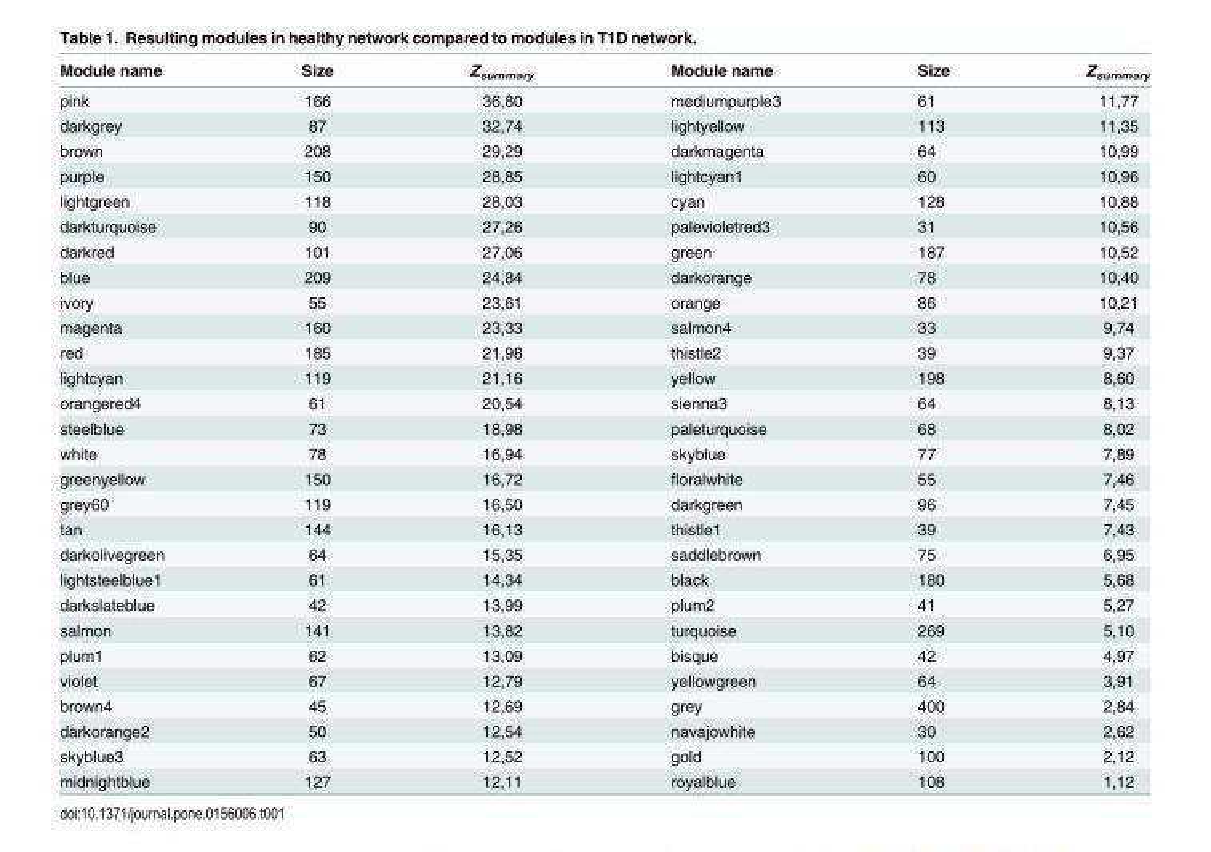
<table><thead><tr><td>Module name</td><td>Size</td><td>Z<sub>summary</sub></td><td>Module name</td><td>Size</td><td>Z<sub>summary</sub></td></tr></thead><tbody><tr><td>pink</td><td>166</td><td>36,80</td><td>mediumpurple3</td><td>61</td><td>11,77</td></tr><tr><td>darkgrey</td><td>87</td><td>32,74</td><td>lightyellow</td><td>113</td><td>11,35</td></tr><tr><td>brown</td><td>208</td><td>29,29</td><td>darkmagenta</td><td>64</td><td>10,99</td></tr><tr><td>purple</td><td>150</td><td>28,85</td><td>lightcyan1</td><td>60</td><td>10,96</td></tr><tr><td>lightgreen</td><td>118</td><td>28,03</td><td>cyan</td><td>128</td><td>10,88</td></tr><tr><td>darkturquoise</td><td>90</td><td>27,26</td><td>palevioletred3</td><td>31</td><td>10,56</td></tr><tr><td>darkred</td><td>101</td><td>27,06</td><td>green</td><td>187</td><td>10,52</td></tr><tr><td>blue</td><td>209</td><td>24,84</td><td>darkorange</td><td>78</td><td>10,40</td></tr><tr><td>ivory</td><td>55</td><td>23,61</td><td>orange</td><td>86</td><td>10,21</td></tr><tr><td>magenta</td><td>160</td><td>23,33</td><td>salmon4</td><td>33</td><td>9,74</td></tr><tr><td>red</td><td>185</td><td>21,98</td><td>thistle2</td><td>39</td><td>9,37</td></tr><tr><td>lightcyan</td><td>119</td><td>21,16</td><td>yellow</td><td>198</td><td>8,60</td></tr><tr><td>orangered4</td><td>61</td><td>20,54</td><td>sienna3</td><td>64</td><td>8,13</td></tr><tr><td>steelblue</td><td>73</td><td>18,98</td><td>paleturquoise</td><td>68</td><td>8,02</td></tr><tr><td>white</td><td>78</td><td>16,94</td><td>skyblue</td><td>77</td><td>7,89</td></tr><tr><td>greenyellow</td><td>150</td><td>16,72</td><td>floralwhite</td><td>55</td><td>7,46</td></tr><tr><td>grey60</td><td>119</td><td>16,50</td><td>darkgreen</td><td>96</td><td>7,45</td></tr><tr><td>tan</td><td>144</td><td>16,13</td><td>thistle1</td><td>39</td><td>7,43</td></tr><tr><td>darkolivegreen</td><td>64</td><td>15,35</td><td>saddlebrown</td><td>75</td><td>6,95</td></tr><tr><td>lightsteelblue1</td><td>61</td><td>14,34</td><td>black</td><td>180</td><td>5,68</td></tr><tr><td>darkslateblue</td><td>42</td><td>13,99</td><td>plum2</td><td>41</td><td>5,27</td></tr><tr><td>salmon</td><td>141</td><td>13,82</td><td>turquoise</td><td>269</td><td>5,10</td></tr><tr><td>plum1</td><td>62</td><td>13,09</td><td>bisque</td><td>42</td><td>4,97</td></tr><tr><td>violet</td><td>67</td><td>12,79</td><td>yellowgreen</td><td>64</td><td>3,91</td></tr><tr><td>brown4</td><td>45</td><td>12,69</td><td>grey</td><td>400</td><td>2,84</td></tr><tr><td>darkorange2</td><td>50</td><td>12,54</td><td>navajowhite</td><td>30</td><td>2,62</td></tr><tr><td>skyblue3</td><td>63</td><td>12,52</td><td>gold</td><td>100</td><td>2,12</td></tr><tr><td>midnightblue</td><td>127</td><td>12,11</td><td>royalblue</td><td>108</td><td>1,12</td></tr></tbody></table>